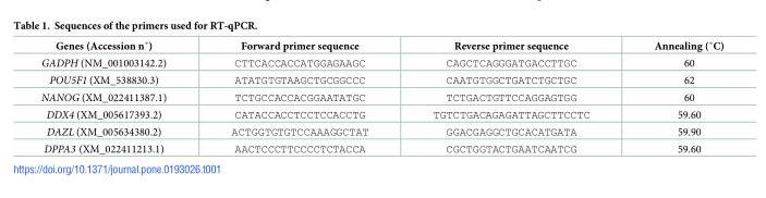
<table><thead><tr><td>Genes (Accession n˚)</td><td>Forward primer sequence</td><td>Reverse primer sequence</td><td>Annealing (˚C)</td></tr></thead><tbody><tr><td>GADPH (NM_001003142.2)</td><td>CTTCACCACCATGGAGAAGC</td><td>CAGCTCAGGGATGACCTTGC</td><td>60</td></tr><tr><td>POU5F1 (XM_538830.3)</td><td>ATATGTGTAAGCTGCGGCCC</td><td>CAATGTGGCTGATCTGCTGC</td><td>62</td></tr><tr><td>NANOG (XM_022411387.1)</td><td>TCTGCCACCACGGAATATGC</td><td>TCTGACTGTTCCAGGAGTGG</td><td>60</td></tr><tr><td>DDX4 (XM_005617393.2)</td><td>CATACCACCTCCTCCACCTG</td><td>TGTCTGACAGAGATTAGCTTCCTC</td><td>59.60</td></tr><tr><td>DAZL (XM_005634380.2)</td><td>ACTGGTGTGTCCAAAGGCTAT</td><td>GGACGAGGCTGCACATGATA</td><td>59.90</td></tr><tr><td>DPPA3 (XM_022411213.1)</td><td>AACTCCCTTCCCCTCTACCA</td><td>CGCTGGTACTGAATCAATCG</td><td>59.60</td></tr></tbody></table>